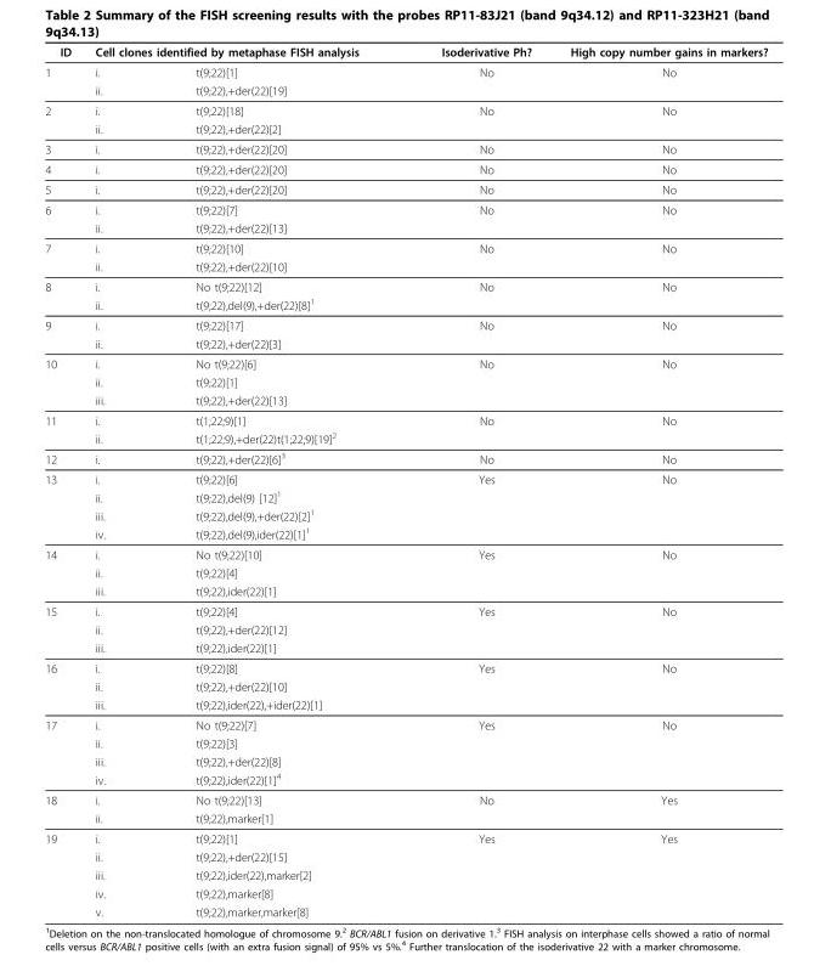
<table><thead><tr><td rowspan="2">ID 1</td><td colspan="2">Cell clones identified by metaphase FISH analysis</td><td rowspan="2">Isoderivative Ph? No</td><td rowspan="2">High copy number gains in markers? No</td></tr><tr><td>i.</td><td>t(9;22)[1]</td></tr></thead><tbody><tr><td></td><td>ii.</td><td>t(9;22),+der(22)[19]</td><td></td><td></td></tr><tr><td rowspan="2">2</td><td>i.</td><td>t(9;22)[18]</td><td>No</td><td>No</td></tr><tr><td>ii.</td><td>t(9;22),+der(22)[2]</td><td></td><td></td></tr><tr><td>3</td><td>i.</td><td>t(9;22),+der(22)[20]</td><td>No</td><td>No</td></tr><tr><td>4</td><td>i.</td><td>t(9;22),+der(22)[20]</td><td>No</td><td>No</td></tr><tr><td>5</td><td>i.</td><td>t(9;22),+der(22)[20]</td><td>No</td><td>No</td></tr><tr><td rowspan="2">6</td><td>i.</td><td>t(9;22)[7]</td><td>No</td><td>No</td></tr><tr><td>ii.</td><td>t(9;22),+der(22)[13]</td><td></td><td></td></tr><tr><td rowspan="2">7</td><td>i.</td><td>t(9;22)[10]</td><td>No</td><td>No</td></tr><tr><td>ii.</td><td>t(9;22),+der(22)[10]</td><td></td><td></td></tr><tr><td rowspan="2">8</td><td>i.</td><td>No t(9;22)[12]</td><td>No</td><td>No</td></tr><tr><td>ii.</td><td>t(9;22),del(9),+der(22)[8]<sup>1</sup></td><td></td><td></td></tr><tr><td rowspan="2">9</td><td>i.</td><td>t(9;22)[17]</td><td>No</td><td>No</td></tr><tr><td>ii.</td><td>t(9;22),+der(22)[3]</td><td></td><td></td></tr><tr><td rowspan="3">10</td><td>i.</td><td>No t(9;22)[6]</td><td>No</td><td>No</td></tr><tr><td>ii.</td><td>t(9;22)[1]</td><td></td><td></td></tr><tr><td>iii.</td><td>t(9;22),+der(22)[13]</td><td></td><td></td></tr><tr><td rowspan="2">11</td><td>i.</td><td>t(1;22;9)[1]</td><td>No</td><td>No</td></tr><tr><td>ii.</td><td>t(1;22;9),+der(22)t(1;22;9)[19]<sup>2</sup></td><td></td><td></td></tr><tr><td>12</td><td>i.</td><td>t(9;22),+der(22)[6]<sup>3</sup></td><td>No</td><td>No</td></tr><tr><td rowspan="4">13</td><td>i.</td><td>t(9;22)[6]</td><td>Yes</td><td>No</td></tr><tr><td>ii.</td><td>t(9;22),del(9) [12]<sup>1</sup></td><td></td><td></td></tr><tr><td>iii.</td><td>t(9;22),del(9),+der(22)[2]<sup>1</sup></td><td></td><td></td></tr><tr><td>iv.</td><td>t(9;22),del(9),ider(22)[1]<sup>1</sup></td><td></td><td></td></tr><tr><td rowspan="3">14</td><td>i.</td><td>No t(9;22)[10]</td><td>Yes</td><td>No</td></tr><tr><td>ii.</td><td>t(9;22)[4]</td><td></td><td></td></tr><tr><td>iii.</td><td>t(9;22),ider(22)[1]</td><td></td><td></td></tr><tr><td rowspan="3">15</td><td>i.</td><td>t(9;22)[4]</td><td>Yes</td><td>No</td></tr><tr><td>ii.</td><td>t(9;22),+der(22)[12]</td><td></td><td></td></tr><tr><td>iii.</td><td>t(9;22),ider(22)[1]</td><td></td><td></td></tr><tr><td rowspan="3">16</td><td>i.</td><td>t(9;22)[8]</td><td>Yes</td><td>No</td></tr><tr><td>ii.</td><td>t(9;22),+der(22)[10]</td><td></td><td></td></tr><tr><td>iii.</td><td>t(9;22),ider(22),+ider(22)[1]</td><td></td><td></td></tr><tr><td rowspan="4">17</td><td>i.</td><td>No t(9;22)[7]</td><td>Yes</td><td>No</td></tr><tr><td>ii.</td><td>t(9;22)[3]</td><td></td><td></td></tr><tr><td>iii.</td><td>t(9;22),+der(22)[8]</td><td></td><td></td></tr><tr><td>iv.</td><td>t(9;22),ider(22)[1]<sup>4</sup></td><td></td><td></td></tr><tr><td rowspan="2">18</td><td>i.</td><td>No t(9;22)[13]</td><td>No</td><td>Yes</td></tr><tr><td>ii.</td><td>t(9;22),marker[1]</td><td></td><td></td></tr><tr><td rowspan="5">19</td><td>i.</td><td>t(9;22)[1]</td><td>Yes</td><td>Yes</td></tr><tr><td>ii.</td><td>t(9;22),+der(22)[15]</td><td></td><td></td></tr><tr><td>iii.</td><td>t(9;22),ider(22),marker[2]</td><td></td><td></td></tr><tr><td>iv.</td><td>t(9;22),marker[8]</td><td></td><td></td></tr><tr><td>v.</td><td>t(9;22),marker,marker[8]</td><td></td><td></td></tr></tbody></table>